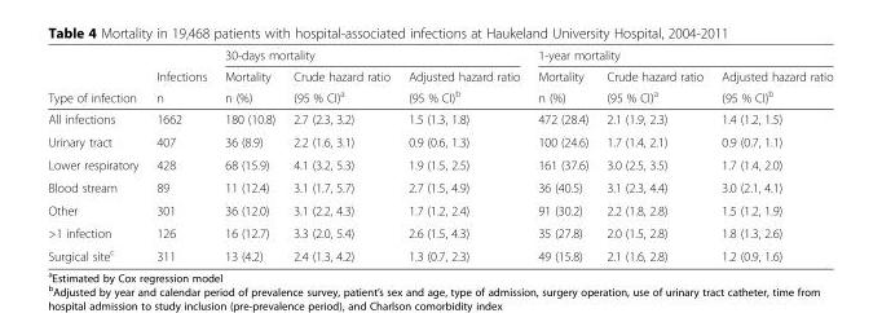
<table><thead><tr><td rowspan="3">Type of infection</td><td rowspan="3">Infections n</td><td colspan="3">30-days mortality</td><td colspan="3">1-year mortality</td></tr><tr><td rowspan="2">Mortality n (%)</td><td rowspan="2">Crude hazard ratio (95 % CI)<sup>a</sup></td><td rowspan="2">Adjusted hazard ratio (95 % CI)<sup>b</sup></td><td rowspan="2">Mortality n (%)</td><td rowspan="2">Crude hazard ratio (95 % CI)<sup>a</sup></td><td rowspan="2">Adjusted hazard ratio (95 % CI)<sup>b</sup></td></tr><tr></tr></thead><tbody><tr><td>All infections</td><td>1662</td><td>180 (10.8)</td><td>2.7 (2.3, 3.2)</td><td>1.5 (1.3, 1.8)</td><td>472 (28.4)</td><td>2.1 (1.9, 2.3)</td><td>1.4 (1.2, 1.5)</td></tr><tr><td>Urinary tract</td><td>407</td><td>36 (8.9)</td><td>2.2 (1.6, 3.1)</td><td>0.9 (0.6, 1.3)</td><td>100 (24.6)</td><td>1.7 (1.4, 2.1)</td><td>0.9 (0.7, 1.1)</td></tr><tr><td>Lower respiratory</td><td>428</td><td>68 (15.9)</td><td>4.1 (3.2, 5.3)</td><td>1.9 (1.5, 2.5)</td><td>161 (37.6)</td><td>3.0 (2.5, 3.5)</td><td>1.7 (1.4, 2.0)</td></tr><tr><td>Blood stream</td><td>89</td><td>11 (12.4)</td><td>3.1 (1.7, 5.7)</td><td>2.7 (1.5, 4.9)</td><td>36 (40.5)</td><td>3.1 (2.3, 4.4)</td><td>3.0 (2.1, 4.1)</td></tr><tr><td>Other</td><td>301</td><td>36 (12.0)</td><td>3.1 (2.2, 4.3)</td><td>1.7 (1.2, 2.4)</td><td>91 (30.2)</td><td>2.2 (1.8, 2.8)</td><td>1.5 (1.2, 1.9)</td></tr><tr><td>&gt;1 infection</td><td>126</td><td>16 (12.7)</td><td>3.3 (2.0, 5.4)</td><td>2.6 (1.5, 4.3)</td><td>35 (27.8)</td><td>2.0 (1.5, 2.8)</td><td>1.8 (1.3, 2.6)</td></tr><tr><td>Surgical site<sup>c</sup></td><td>311</td><td>13 (4.2)</td><td>2.4 (1.3, 4.2)</td><td>1.3 (0.7, 2.3)</td><td>49 (15.8)</td><td>2.1 (1.6, 2.8)</td><td>1.2 (0.9, 1.6)</td></tr></tbody></table>